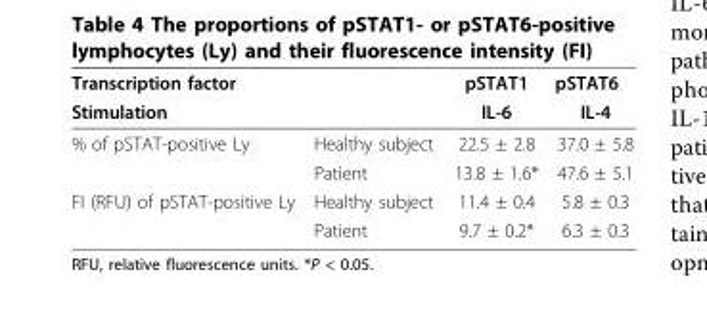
<table><thead><tr><td rowspan="2">Transcription factor Stimulation</td><td rowspan="2"></td><td rowspan="2">pSTAT1 IL-6</td><td rowspan="2">pSTAT6 IL-4</td></tr><tr></tr></thead><tbody><tr><td rowspan="2">% of pSTAT-positive Ly</td><td>Healthy subject</td><td>22.5 ± 2.8</td><td>37.0 ± 5.8</td></tr><tr><td>Patient</td><td>13.8 ± 1.6*</td><td>47.6 ± 5.1</td></tr><tr><td rowspan="2">FI (RFU) of pSTAT-positive Ly</td><td>Healthy subject</td><td>11.4 ± 0.4</td><td>5.8 ± 0.3</td></tr><tr><td>Patient</td><td>9.7 ± 0.2*</td><td>6.3 ± 0.3</td></tr></tbody></table>